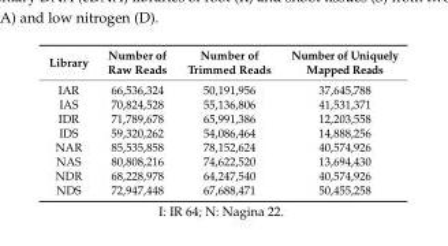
<table><thead><tr><td>Library</td><td>Number of Raw Reads</td><td>Number of Trimmed Reads</td><td>Number of Uniquely Mapped Reads</td></tr></thead><tbody><tr><td>IAR</td><td>66,536,324</td><td>50,191,956</td><td>37,645,788</td></tr><tr><td>IAS</td><td>70,824,528</td><td>55,136,806</td><td>41,531,371</td></tr><tr><td>IDR</td><td>71,789,678</td><td>65,991,386</td><td>12,203,558</td></tr><tr><td>IDS</td><td>59,320,262</td><td>54,086,464</td><td>14,888,256</td></tr><tr><td>NAR</td><td>85,535,858</td><td>78,152,624</td><td>40,574,926</td></tr><tr><td>NAS</td><td>80,808,216</td><td>74,622,520</td><td>13,694,430</td></tr><tr><td>NDR</td><td>68,228,978</td><td>64,247,540</td><td>40,574,926</td></tr><tr><td>NDS</td><td>72,947,448</td><td>67,688,471</td><td>50,455,258</td></tr></tbody></table>